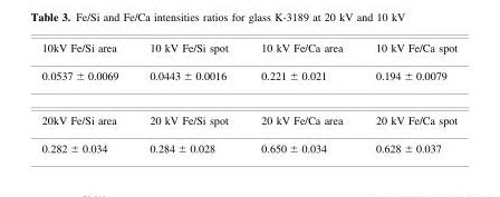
<table><tbody><tr><td>10kV Fe/Si area</td><td>10 kV Fe/Si spot</td><td>10 kV Fe/Ca area</td><td>10 kV Fe/Ca spot</td></tr><tr><td>0.0537 ± 0.0069</td><td>0.0443 ± 0.0016</td><td>0.221 ± 0.021</td><td>0.194 ± 0.0079</td></tr><tr><td>20kV Fe/Si area</td><td>20 kV Fe/Si spot</td><td>20 kV Fe/Ca area</td><td>20 kV Fe/Ca spot</td></tr><tr><td>0.282 ± 0.034</td><td>0.284 ± 0.028</td><td>0.650 ± 0.034</td><td>0.628 ± 0.037</td></tr></tbody></table>